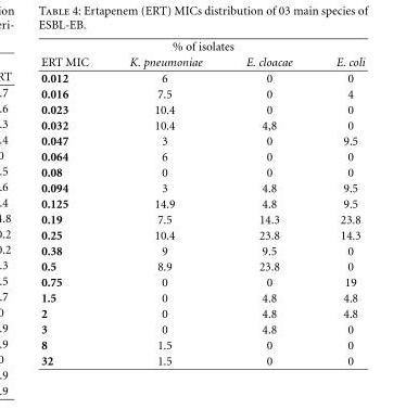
<table><thead><tr><td colspan="4">% of isolates</td></tr><tr><td>ERT MIC</td><td>K. pneumoniae</td><td>E. cloacae</td><td>E. coli</td></tr></thead><tbody><tr><td>0.012</td><td>6</td><td>0</td><td>0</td></tr><tr><td>0.016</td><td>7.5</td><td>0</td><td>4</td></tr><tr><td>0.023</td><td>10.4</td><td>0</td><td>0</td></tr><tr><td>0.032</td><td>10.4</td><td>4,8</td><td>0</td></tr><tr><td>0.047</td><td>3</td><td>0</td><td>9.5</td></tr><tr><td>0.064</td><td>6</td><td>0</td><td>0</td></tr><tr><td>0.08</td><td>0</td><td>0</td><td>0</td></tr><tr><td>0.094</td><td>3</td><td>4.8</td><td>9.5</td></tr><tr><td>0.125</td><td>14.9</td><td>4.8</td><td>9.5</td></tr><tr><td>0.19</td><td>7.5</td><td>14.3</td><td>23.8</td></tr><tr><td>0.25</td><td>10.4</td><td>23.8</td><td>14.3</td></tr><tr><td>0.38</td><td>9</td><td>9.5</td><td>0</td></tr><tr><td>0.5</td><td>8.9</td><td>23.8</td><td>0</td></tr><tr><td>0.75</td><td>0</td><td>0</td><td>19</td></tr><tr><td>1.5</td><td>0</td><td>4.8</td><td>4.8</td></tr><tr><td>2</td><td>0</td><td>4.8</td><td>4.8</td></tr><tr><td>3</td><td>0</td><td>4.8</td><td>0</td></tr><tr><td>8</td><td>1.5</td><td>0</td><td>0</td></tr><tr><td>32</td><td>1.5</td><td>0</td><td>0</td></tr></tbody></table>